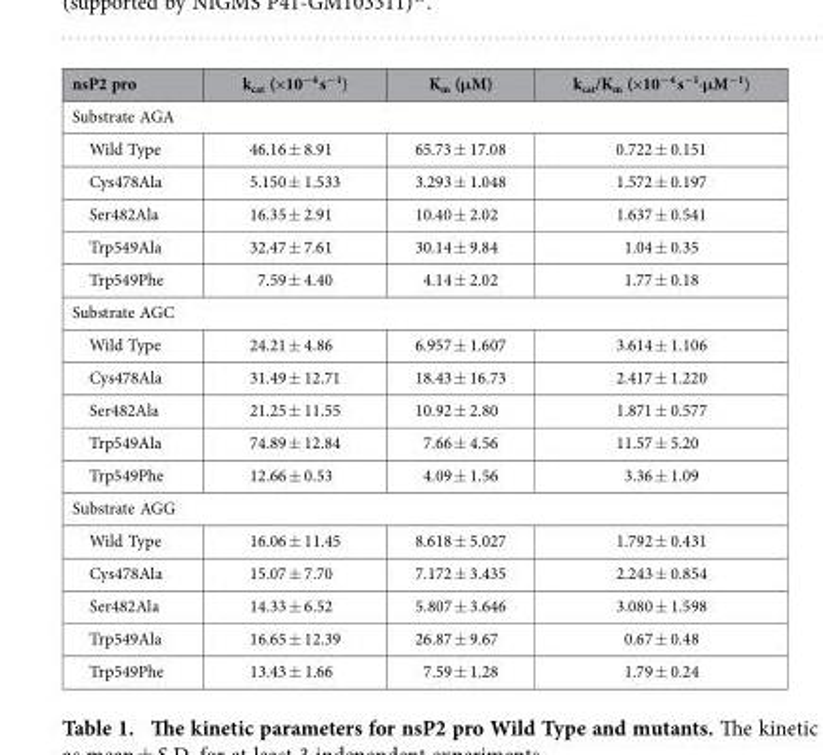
<table><thead><tr><td>nsP2 pro</td><td>k<sub>cat</sub> (×10<sup>−4</sup> s<sup>−1</sup>)</td><td>K<sub>m</sub> (μM)</td><td>k<sub>cat</sub>/K<sub>m</sub> (×10<sup>−4</sup> s<sup>−1</sup>∙μM<sup>−1</sup>)</td></tr></thead><tbody><tr><td colspan="4">Substrate AGA</td></tr><tr><td>Wild Type</td><td>46.16 ± 8.91</td><td>65.73 ± 17.08</td><td>0.722 ± 0.151</td></tr><tr><td>Cys478Ala</td><td>5.150 ± 1.533</td><td>3.293 ± 1.048</td><td>1.572 ± 0.197</td></tr><tr><td>Ser482Ala</td><td>16.35 ± 2.91</td><td>10.40 ± 2.02</td><td>1.637 ± 0.541</td></tr><tr><td>Trp549Ala</td><td>32.47 ± 7.61</td><td>30.14 ± 9.84</td><td>1.04 ± 0.35</td></tr><tr><td>Trp549Phe</td><td>7.59 ± 4.40</td><td>4.14 ± 2.02</td><td>1.77 ± 0.18</td></tr><tr><td colspan="4">Substrate AGC</td></tr><tr><td>Wild Type</td><td>24.21 ± 4.86</td><td>6.957 ± 1.607</td><td>3.614 ± 1.106</td></tr><tr><td>Cys478Ala</td><td>31.49 ± 12.71</td><td>18.43 ± 16.73</td><td>2.417 ± 1.220</td></tr><tr><td>Ser482Ala</td><td>21.25 ± 11.55</td><td>10.92 ± 2.80</td><td>1.871 ± 0.577</td></tr><tr><td>Trp549Ala</td><td>74.89 ± 12.84</td><td>7.66 ± 4.56</td><td>11.57 ± 5.20</td></tr><tr><td>Trp549Phe</td><td>12.66 ± 0.53</td><td>4.09 ± 1.56</td><td>3.36 ± 1.09</td></tr><tr><td colspan="4">Substrate AGG</td></tr><tr><td>Wild Type</td><td>16.06 ± 11.45</td><td>8.618 ± 5.027</td><td>1.792 ± 0.431</td></tr><tr><td>Cys478Ala</td><td>15.07 ± 7.70</td><td>7.172 ± 3.435</td><td>2.243 ± 0.854</td></tr><tr><td>Ser482Ala</td><td>14.33 ± 6.52</td><td>5.807 ± 3.646</td><td>3.080 ± 1.598</td></tr><tr><td>Trp549Ala</td><td>16.65 ± 12.39</td><td>26.87 ± 9.67</td><td>0.67 ± 0.48</td></tr><tr><td>Trp549Phe</td><td>13.43 ± 1.66</td><td>7.59 ± 1.28</td><td>1.79 ± 0.24</td></tr></tbody></table>